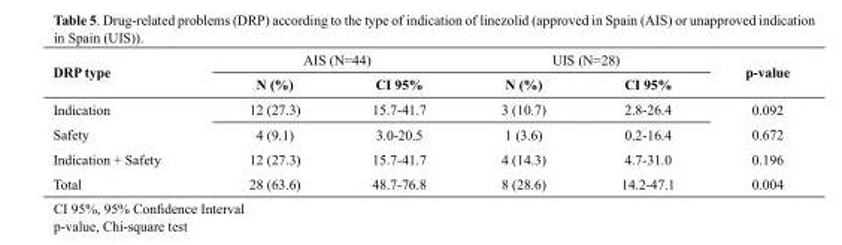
<table><thead><tr><td rowspan="2">DRP type</td><td colspan="2">AIS (N=44)</td><td colspan="2">UIS (N=28)</td><td rowspan="2">p-value</td></tr><tr><td>N (%)</td><td>CI 95%</td><td>N (%)</td><td>CI 95%</td></tr></thead><tbody><tr><td>Indication</td><td>12 (27.3)</td><td>15.7-41.7</td><td>3 (10.7)</td><td>2.8-26.4</td><td>0.092</td></tr><tr><td>Safety</td><td>4 (9.1)</td><td>3.0-20.5</td><td>1 (3.6)</td><td>0.2-16.4</td><td>0.672</td></tr><tr><td>Indication + Safety</td><td>12 (27.3)</td><td>15.7-41.7</td><td>4 (14.3)</td><td>4.7-31.0</td><td>0.196</td></tr><tr><td>Total</td><td>28 (63.6)</td><td>48.7-76.8</td><td>8 (28.6)</td><td>14.2-47.1</td><td>0.004</td></tr></tbody></table>